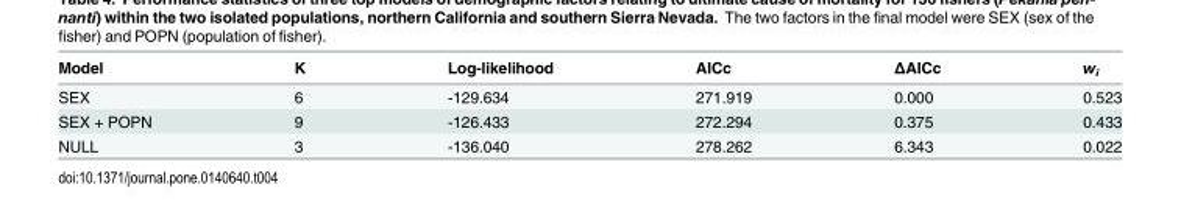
<table><thead><tr><td>Model</td><td>K</td><td>Log-likelihood</td><td>AICc</td><td>ΔAICc</td><td>w<sub>i</sub></td></tr></thead><tbody><tr><td>SEX</td><td>6</td><td>-129.634</td><td>271.919</td><td>0.000</td><td>0.523</td></tr><tr><td>SEX + POPN</td><td>9</td><td>-126.433</td><td>272.294</td><td>0.375</td><td>0.433</td></tr><tr><td>NULL</td><td>3</td><td>-136.040</td><td>278.262</td><td>6.343</td><td>0.022</td></tr></tbody></table>